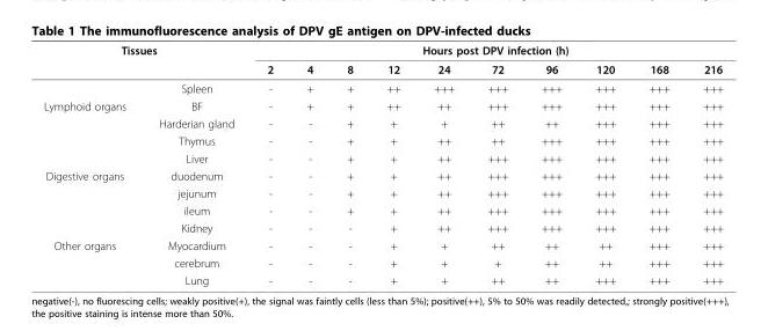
<table><thead><tr><td colspan="2">Tissues</td><td colspan="10">Hours post DPV infection (h)</td></tr><tr><td></td><td></td><td>2</td><td>4</td><td>8</td><td>12</td><td>24</td><td>72</td><td>96</td><td>120</td><td>168</td><td>216</td></tr></thead><tbody><tr><td></td><td>Spleen</td><td>-</td><td>+</td><td>+</td><td>++</td><td>+++</td><td>+++</td><td>+++</td><td>+++</td><td>+++</td><td>+++</td></tr><tr><td rowspan="4">Lymphoid organs</td><td>BF</td><td>-</td><td>+</td><td>+</td><td>++</td><td>++</td><td>+++</td><td>+++</td><td>+++</td><td>+++</td><td>+++</td></tr><tr><td>Harderian gland</td><td>-</td><td>-</td><td>+</td><td>+</td><td>+</td><td>++</td><td>++</td><td>+++</td><td>+++</td><td>+++</td></tr><tr><td>Thymus</td><td>-</td><td>-</td><td>+</td><td>+</td><td>++</td><td>++</td><td>+++</td><td>+++</td><td>+++</td><td>+++</td></tr><tr><td>Liver</td><td>-</td><td>-</td><td>+</td><td>+</td><td>++</td><td>+++</td><td>+++</td><td>+++</td><td>+++</td><td>+++</td></tr><tr><td rowspan="4">Digestive organs</td><td>duodenum</td><td>-</td><td>-</td><td>+</td><td>+</td><td>++</td><td>+++</td><td>+++</td><td>+++</td><td>+++</td><td>+++</td></tr><tr><td>jejunum</td><td>-</td><td>-</td><td>+</td><td>+</td><td>++</td><td>+++</td><td>+++</td><td>+++</td><td>+++</td><td>+++</td></tr><tr><td>ileum</td><td>-</td><td>-</td><td>+</td><td>+</td><td>++</td><td>+++</td><td>+++</td><td>+++</td><td>+++</td><td>+++</td></tr><tr><td>Kidney</td><td>-</td><td>-</td><td>-</td><td>+</td><td>++</td><td>+++</td><td>+++</td><td>+++</td><td>+++</td><td>+++</td></tr><tr><td rowspan="3">Other organs</td><td>Myocardium</td><td>-</td><td>-</td><td>-</td><td>+</td><td>+</td><td>++</td><td>++</td><td>++</td><td>+++</td><td>+++</td></tr><tr><td>cerebrum</td><td>-</td><td>-</td><td>-</td><td>+</td><td>+</td><td>+</td><td>++</td><td>++</td><td>+++</td><td>+++</td></tr><tr><td>Lung</td><td>-</td><td>-</td><td>-</td><td>+</td><td>+</td><td>++</td><td>++</td><td>+++</td><td>+++</td><td>+++</td></tr></tbody></table>